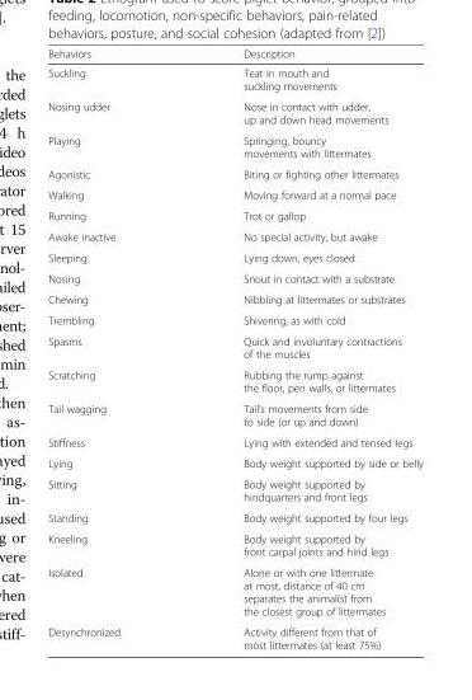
<table><thead><tr><td>Behaviors</td><td>Description</td></tr></thead><tbody><tr><td>Suckling</td><td>Teat in mouth and suckling movements</td></tr><tr><td>Nosing udder</td><td>Nose in contact with udder, up and down head movements</td></tr><tr><td>Playing</td><td>Springing, bouncy movements with littermates</td></tr><tr><td>Agonistic</td><td>Biting or fighting other littermates</td></tr><tr><td>Walking</td><td>Moving forward at a normal pace</td></tr><tr><td>Running</td><td>Trot or gallop</td></tr><tr><td>Awake inactive</td><td>No special activity, but awake</td></tr><tr><td>Sleeping</td><td>Lying down, eyes closed</td></tr><tr><td>Nosing</td><td>Snout in contact with a substrate</td></tr><tr><td>Chewing</td><td>Nibbling at littermates or substrates</td></tr><tr><td>Trembling</td><td>Shivering, as with cold</td></tr><tr><td>Spasms</td><td>Quick and involuntary contractions of the muscles</td></tr><tr><td>Scratching</td><td>Rubbing the rump against the floor, pen walls, or littermates</td></tr><tr><td>Tail wagging</td><td>Tail’s movements from side to side (or up and down)</td></tr><tr><td>Stiffness</td><td>Lying with extended and tensed legs</td></tr><tr><td>Lying</td><td>Body weight supported by side or belly</td></tr><tr><td>Sitting</td><td>Body weight supported by hindquarters and front legs</td></tr><tr><td>Standing</td><td>Body weight supported by four legs</td></tr><tr><td>Kneeling</td><td>Body weight supported by front carpal joints and hind legs</td></tr><tr><td>Isolated</td><td>Alone or with one littermate at most, distance of 40 cm separates the animal(s) from the closest group of littermates</td></tr><tr><td>Desynchronized</td><td>Activity different from that of most littermates (at least 75%)</td></tr></tbody></table>